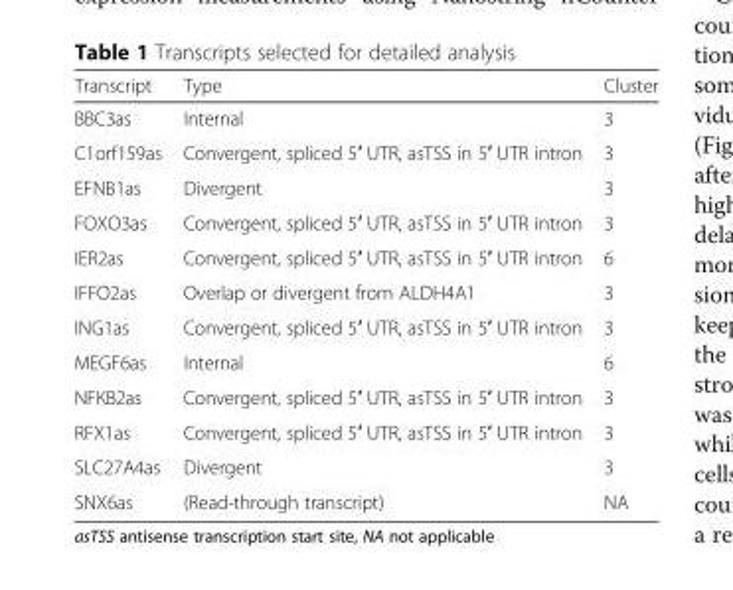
<table><thead><tr><td>Transcript</td><td>Type</td><td>Cluster</td></tr></thead><tbody><tr><td>BBC3as</td><td>Internal</td><td>3</td></tr><tr><td>C1orf159as</td><td>Convergent, spliced 5′ UTR, asTSS in 5′ UTR intron</td><td>3</td></tr><tr><td>EFNB1as</td><td>Divergent</td><td>3</td></tr><tr><td>FOXO3as</td><td>Convergent, spliced 5′ UTR, asTSS in 5′ UTR intron</td><td>3</td></tr><tr><td>IER2as</td><td>Convergent, spliced 5′ UTR, asTSS in 5′ UTR intron</td><td>6</td></tr><tr><td>IFFO2as</td><td>Overlap or divergent from ALDH4A1</td><td>3</td></tr><tr><td>ING1as</td><td>Convergent, spliced 5′ UTR, asTSS in 5′ UTR intron</td><td>3</td></tr><tr><td>MEGF6as</td><td>Internal</td><td>6</td></tr><tr><td>NFKB2as</td><td>Convergent, spliced 5′ UTR, asTSS in 5′ UTR intron</td><td>3</td></tr><tr><td>RFX1as</td><td>Convergent, spliced 5′ UTR, asTSS in 5′ UTR intron</td><td>3</td></tr><tr><td>SLC27A4as</td><td>Divergent</td><td>3</td></tr><tr><td>SNX6as</td><td>(Read-through transcript)</td><td>NA</td></tr></tbody></table>